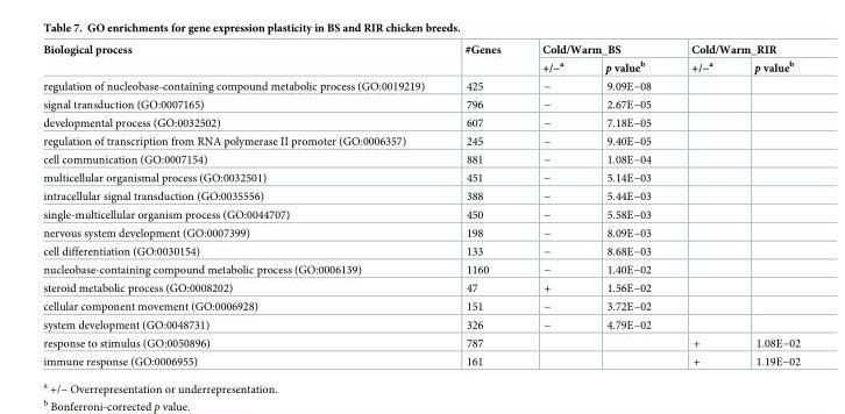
<table><thead><tr><td rowspan="2">Biological process</td><td rowspan="2">#Genes</td><td colspan="2">Cold/Warm_BS</td><td colspan="2">Cold/Warm_RIR</td></tr><tr><td>+/−<sup>a</sup></td><td>p value<sup>b</sup></td><td>+/−<sup>a</sup></td><td>p value<sup>b</sup></td></tr></thead><tbody><tr><td>regulation of nucleobase-containing compound metabolic process (GO:0019219)</td><td>425</td><td>−</td><td>9.09E−08</td><td></td><td></td></tr><tr><td>signal transduction (GO:0007165)</td><td>796</td><td>−</td><td>2.67E−05</td><td></td><td></td></tr><tr><td>developmental process (GO:0032502)</td><td>607</td><td>−</td><td>7.18E−05</td><td></td><td></td></tr><tr><td>regulation of transcription from RNA polymerase II promoter (GO:0006357)</td><td>245</td><td>−</td><td>9.40E−05</td><td></td><td></td></tr><tr><td>cell communication (GO:0007154)</td><td>881</td><td>−</td><td>1.08E−04</td><td></td><td></td></tr><tr><td>multicellular organismal process (GO:0032501)</td><td>451</td><td>−</td><td>5.14E−03</td><td></td><td></td></tr><tr><td>intracellular signal transduction (GO:0035556)</td><td>388</td><td>−</td><td>5.44E−03</td><td></td><td></td></tr><tr><td>single-multicellular organism process (GO:0044707)</td><td>450</td><td>−</td><td>5.58E−03</td><td></td><td></td></tr><tr><td>nervous system development (GO:0007399)</td><td>198</td><td>−</td><td>8.09E−03</td><td></td><td></td></tr><tr><td>cell differentiation (GO:0030154)</td><td>133</td><td>−</td><td>8.68E−03</td><td></td><td></td></tr><tr><td>nucleobase-containing compound metabolic process (GO:0006139)</td><td>1160</td><td>−</td><td>1.40E−02</td><td></td><td></td></tr><tr><td>steroid metabolic process (GO:0008202)</td><td>47</td><td>+</td><td>1.56E−02</td><td></td><td></td></tr><tr><td>cellular component movement (GO:0006928)</td><td>151</td><td>−</td><td>3.72E−02</td><td></td><td></td></tr><tr><td>system development (GO:0048731)</td><td>326</td><td>−</td><td>4.79E−02</td><td></td><td></td></tr><tr><td>response to stimulus (GO:0050896)</td><td>787</td><td></td><td></td><td>+</td><td>1.08E−02</td></tr><tr><td>immune response (GO:0006955)</td><td>161</td><td></td><td></td><td>+</td><td>1.19E−02</td></tr></tbody></table>